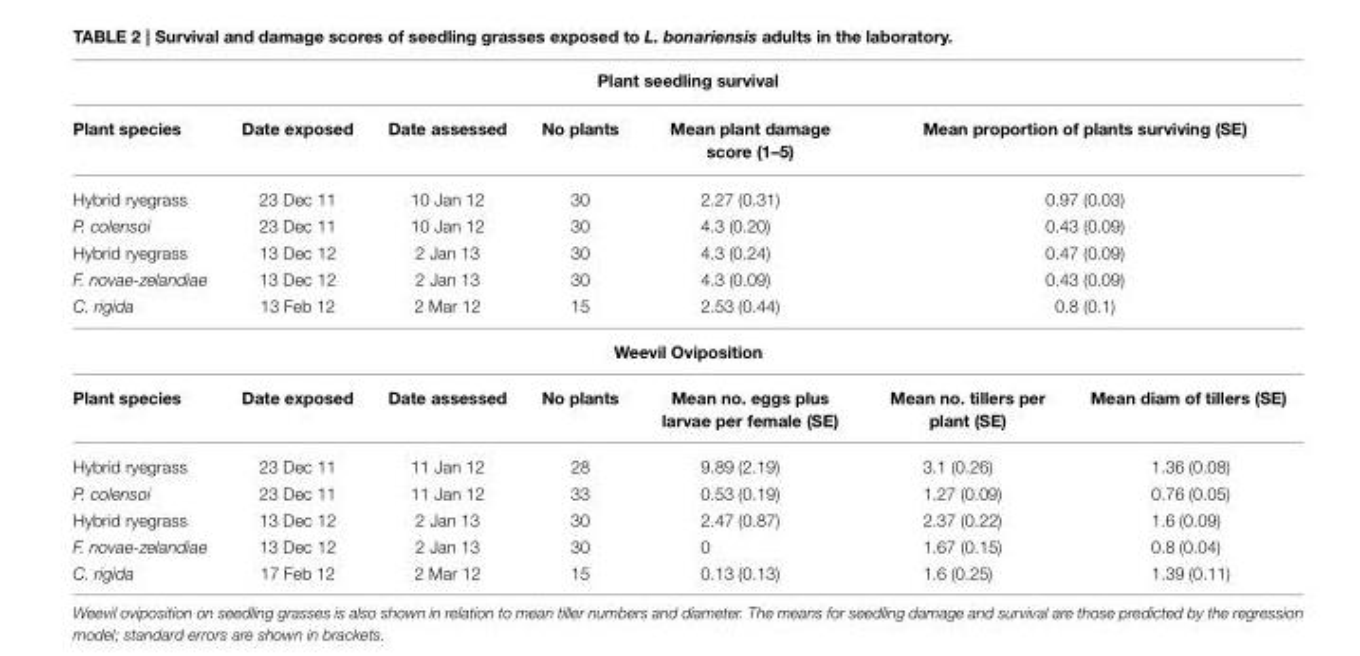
<table><thead><tr><td colspan="7">Plant seedling survival</td></tr></thead><tbody><tr><td>Plant species</td><td>Date exposed</td><td>Date assessed</td><td>No plants</td><td>Mean plant damage score (1–5)</td><td colspan="2">Mean proportion of plants surviving (SE)</td></tr><tr><td>Hybrid ryegrass</td><td>23 Dec 11</td><td>10 Jan 12</td><td>30</td><td>2.27 (0.31)</td><td colspan="2">0.97 (0.03)</td></tr><tr><td>P. colensoi</td><td>23 Dec 11</td><td>10 Jan 12</td><td>30</td><td>4.3 (0.20)</td><td colspan="2">0.43 (0.09)</td></tr><tr><td>Hybrid ryegrass</td><td>13 Dec 12</td><td>2 Jan 13</td><td>30</td><td>4.3 (0.24)</td><td colspan="2">0.47 (0.09)</td></tr><tr><td>F. novae-zelandiae</td><td>13 Dec 12</td><td>2 Jan 13</td><td>30</td><td>4.3 (0.09)</td><td colspan="2">0.43 (0.09)</td></tr><tr><td>C. rigida</td><td>13 Feb 12</td><td>2 Mar 12</td><td>15</td><td>2.53 (0.44)</td><td colspan="2">0.8 (0.1)</td></tr><tr><td colspan="7">Weevil Oviposition</td></tr><tr><td>Plant species</td><td>Date exposed</td><td>Date assessed</td><td>No plants</td><td>Mean no. eggs plus larvae per female (SE)</td><td>Mean no. tillers per plant (SE)</td><td>Mean diam of tillers (SE)</td></tr><tr><td>Hybrid ryegrass</td><td>23 Dec 11</td><td>11 Jan 12</td><td>28</td><td>9.89 (2.19)</td><td>3.1 (0.26)</td><td>1.36 (0.08)</td></tr><tr><td>P. colensoi</td><td>23 Dec 11</td><td>11 Jan 12</td><td>33</td><td>0.53 (0.19)</td><td>1.27 (0.09)</td><td>0.76 (0.05)</td></tr><tr><td>Hybrid ryegrass</td><td>13 Dec 12</td><td>2 Jan 13</td><td>30</td><td>2.47 (0.87)</td><td>2.37 (0.22)</td><td>1.6 (0.09)</td></tr><tr><td>F. novae-zelandiae</td><td>13 Dec 12</td><td>2 Jan 13</td><td>30</td><td>0</td><td>1.67 (0.15)</td><td>0.8 (0.04)</td></tr><tr><td>C. rigida</td><td>17 Feb 12</td><td>2 Mar 12</td><td>15</td><td>0.13 (0.13)</td><td>1.6 (0.25)</td><td>1.39 (0.11)</td></tr></tbody></table>